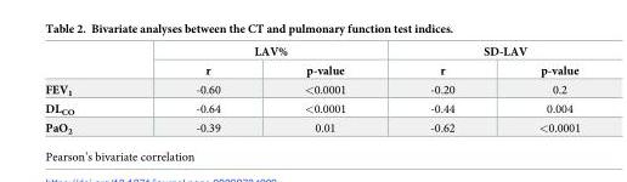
<table><thead><tr><td rowspan="2"></td><td colspan="2">LAV%</td><td colspan="2">SD-LAV</td></tr><tr><td>r</td><td>p-value</td><td>r</td><td>p-value</td></tr></thead><tbody><tr><td>FEV<sub>1</sub></td><td>-0.60</td><td>&lt;0.0001</td><td>-0.20</td><td>0.2</td></tr><tr><td>DL<sub>CO</sub></td><td>-0.64</td><td>&lt;0.0001</td><td>-0.44</td><td>0.004</td></tr><tr><td>PaO<sub>2</sub></td><td>-0.39</td><td>0.01</td><td>-0.62</td><td>&lt;0.0001</td></tr></tbody></table>